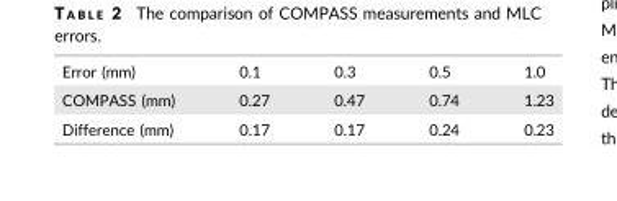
<table><tbody><tr><td>Error (mm)</td><td>0.1</td><td>0.3</td><td>0.5</td><td>1.0</td></tr><tr><td>COMPASS (mm)</td><td>0.27</td><td>0.47</td><td>0.74</td><td>1.23</td></tr><tr><td>Difference (mm)</td><td>0.17</td><td>0.17</td><td>0.24</td><td>0.23</td></tr></tbody></table>